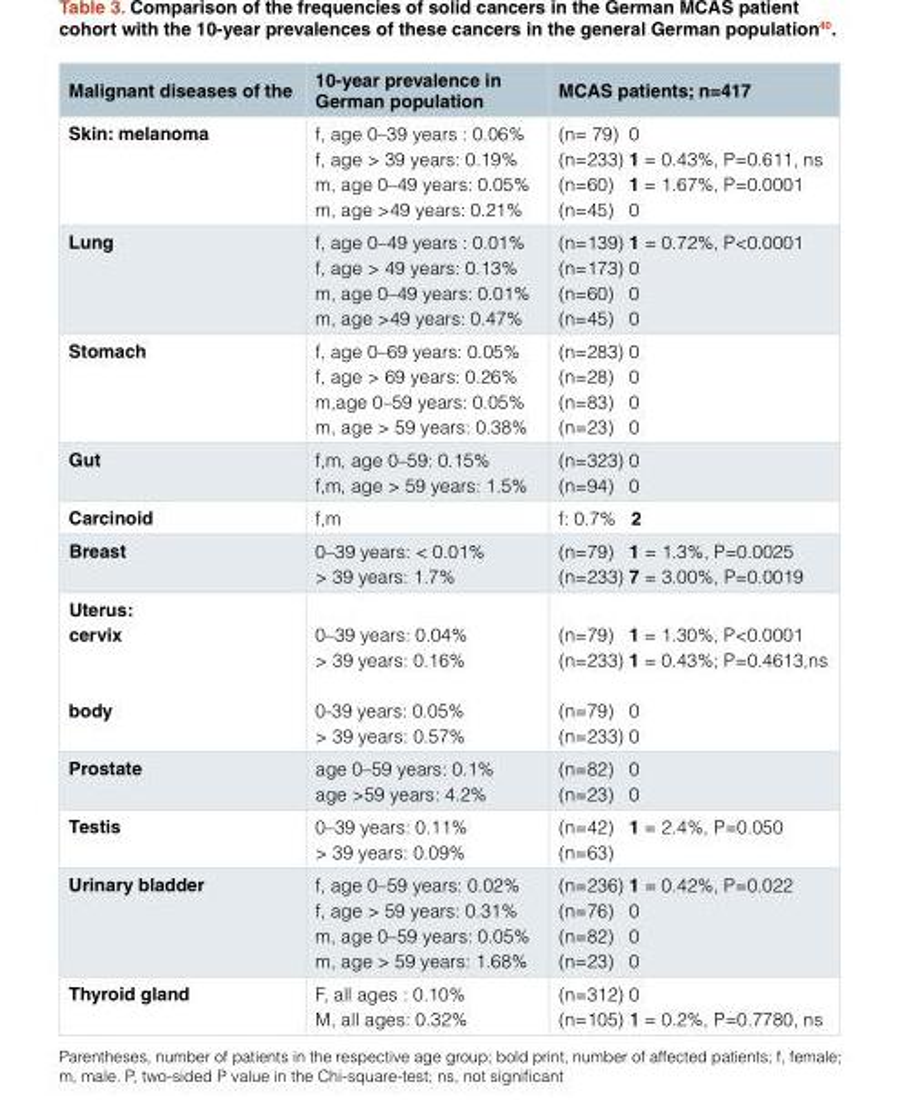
<table><thead><tr><td>Malignant diseases of the</td><td>10-year prevalence in German population</td><td>MCAS patients; n=417</td></tr></thead><tbody><tr><td>Skin: melanoma</td><td>f, age 0–39 years : 0.06% f, age &gt; 39 years: 0.19% m, age 0–49 years: 0.05% m, age &gt;49 years: 0.21%</td><td>(n= 79) 0 (n=233) 1 = 0.43%, P=0.611, ns (n=60) 1 = 1.67%, P=0.0001 (n=45) 0</td></tr><tr><td>Lung</td><td>f, age 0–49 years : 0.01% f, age &gt; 49 years: 0.13% m, age 0–49 years: 0.01% m, age &gt;49 years: 0.47%</td><td>(n=139) 1 = 0.72%, P&lt;0.0001 (n=173) 0 (n=60) 0 (n=45) 0</td></tr><tr><td>Stomach</td><td>f, age 0–69 years: 0.05% f, age &gt; 69 years: 0.26% m,age 0–59 years: 0.05% m, age &gt; 59 years: 0.38%</td><td>(n=283) 0 (n=28) 0 (n=83) 0 (n=23) 0</td></tr><tr><td>Gut</td><td>f,m, age 0–59: 0.15% f,m, age &gt; 59 years: 1.5%</td><td>(n=323) 0 (n=94) 0</td></tr><tr><td>Carcinoid</td><td>f,m</td><td>f: 0.7% 2</td></tr><tr><td>Breast</td><td>0–39 years: &lt; 0.01% &gt; 39 years: 1.7%</td><td>(n=79) 1 = 1.3%, P=0.0025 (n=233) 7 = 3.00%, P=0.0019</td></tr><tr><td>Uterus: cervix body</td><td>0–39 years: 0.04% &gt; 39 years: 0.16% 0-39 years: 0.05% &gt; 39 years: 0.57%</td><td>(n=79) 1 = 1.30%, P&lt;0.0001 (n=233) 1 = 0.43%; P=0.4613,ns (n=79) 0 (n=233) 0</td></tr><tr><td>Prostate</td><td>age 0–59 years: 0.1% age &gt;59 years: 4.2%</td><td>(n=82) 0 (n=23) 0</td></tr><tr><td>Testis</td><td>0–39 years: 0.11% &gt; 39 years: 0.09%</td><td>(n=42) 1 = 2.4%, P=0.050 (n=63)</td></tr><tr><td>Urinary bladder</td><td>f, age 0–59 years: 0.02% f, age &gt; 59 years: 0.31% m, age 0–59 years: 0.05% m, age &gt; 59 years: 1.68%</td><td>(n=236) 1 = 0.42%, P=0.022 (n=76) 0 (n=82) 0 (n=23) 0</td></tr><tr><td>Thyroid gland</td><td>F, all ages : 0.10% M, all ages: 0.32%</td><td>(n=312) 0 (n=105) 1 = 0.2%, P=0.7780, ns</td></tr></tbody></table>